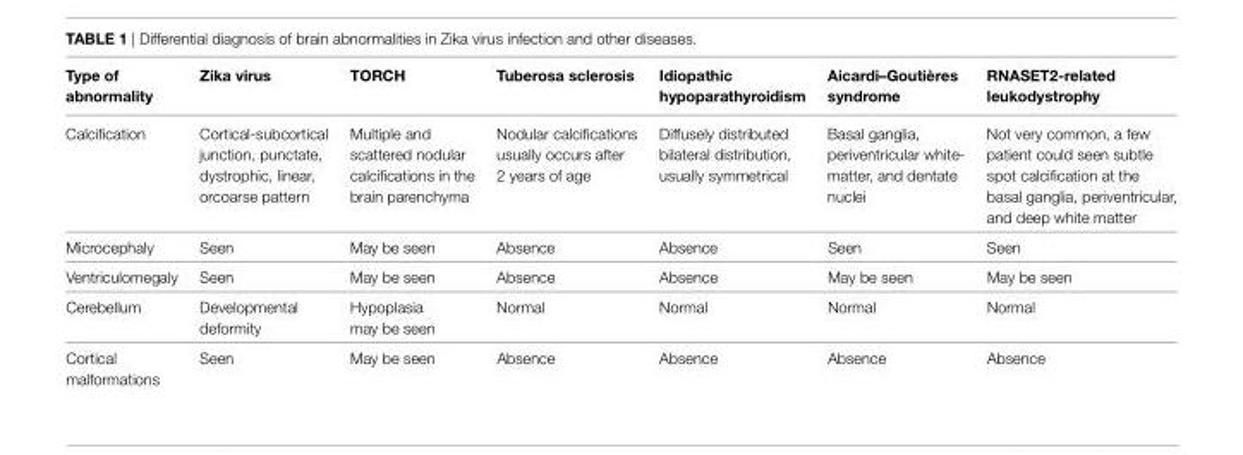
<table><thead><tr><td>Type of abnormality</td><td>Zika virus</td><td>TORCH</td><td>Tuberosa sclerosis</td><td>idiopathic hypoparathyroidism</td><td>Aicardi–Goutières syndrome</td><td>RNASeT2-related leukodystrophy</td></tr></thead><tbody><tr><td>Calcification</td><td>Cortical-subcortical junction, punctate, dystrophic, linear, orcoarse pattern</td><td>Multiple and scattered nodular calcifications in the brain parenchyma</td><td>Nodular calcifications usually occurs after 2 years of age</td><td>Diffusely distributed bilateral distribution, usually symmetrical</td><td>Basal ganglia, periventricular white- matter, and dentate nuclei</td><td>Not very common, a few patient could seen subtle spot calcification at the basal ganglia, periventricular, and deep white matter</td></tr><tr><td>Microcephaly</td><td>Seen</td><td>May be seen</td><td>Absence</td><td>Absence</td><td>Seen</td><td>Seen</td></tr><tr><td>Ventriculomegaly</td><td>Seen</td><td>May be seen</td><td>Absence</td><td>Absence</td><td>May be seen</td><td>May be seen</td></tr><tr><td>Cerebellum</td><td>Developmental deformity</td><td>Hypoplasia may be seen</td><td>Normal</td><td>Normal</td><td>Normal</td><td>Normal</td></tr><tr><td>Cortical malformations</td><td>Seen</td><td>May be seen</td><td>Absence</td><td>Absence</td><td>Absence</td><td>Absence</td></tr></tbody></table>